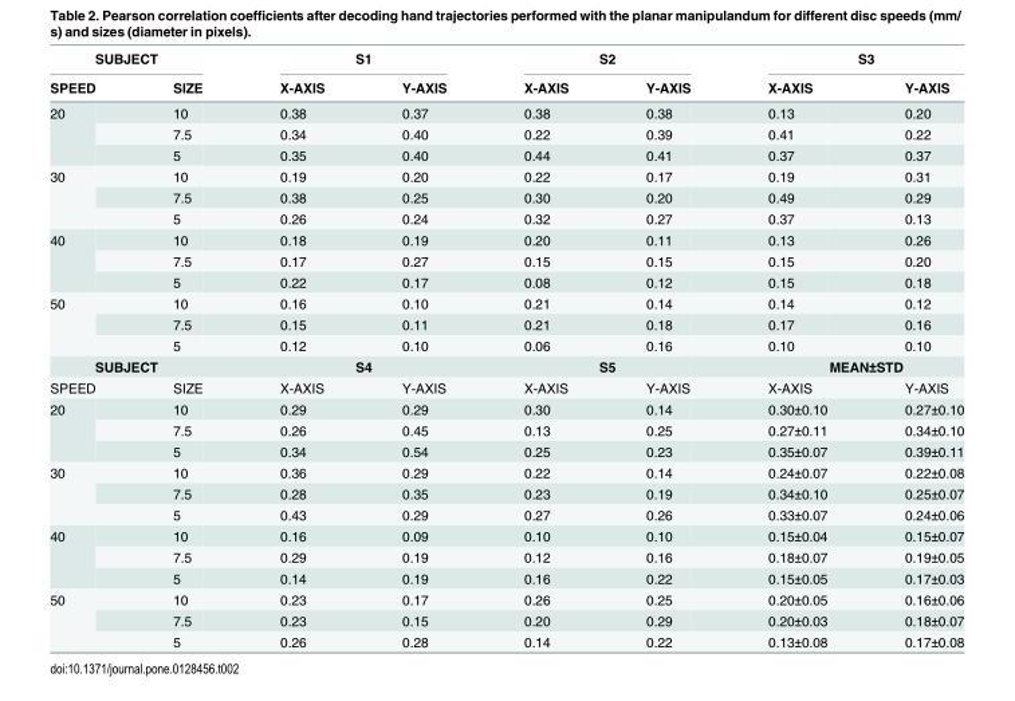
<table><thead><tr><td colspan="2">SUBJECT</td><td colspan="2">S1</td><td colspan="2">S2</td><td colspan="2">S3</td></tr><tr><td>SPEED</td><td>SIZE</td><td>X-AXIS</td><td>Y-AXIS</td><td>X-AXIS</td><td>Y-AXIS</td><td>X-AXIS</td><td>Y-AXIS</td></tr></thead><tbody><tr><td rowspan="3">20</td><td>10</td><td>0.38</td><td>0.37</td><td>0.38</td><td>0.38</td><td>0.13</td><td>0.20</td></tr><tr><td>7.5</td><td>0.34</td><td>0.40</td><td>0.22</td><td>0.39</td><td>0.41</td><td>0.22</td></tr><tr><td>5</td><td>0.35</td><td>0.40</td><td>0.44</td><td>0.41</td><td>0.37</td><td>0.37</td></tr><tr><td rowspan="3">30</td><td>10</td><td>0.19</td><td>0.20</td><td>0.22</td><td>0.17</td><td>0.19</td><td>0.31</td></tr><tr><td>7.5</td><td>0.38</td><td>0.25</td><td>0.30</td><td>0.20</td><td>0.49</td><td>0.29</td></tr><tr><td>5</td><td>0.26</td><td>0.24</td><td>0.32</td><td>0.27</td><td>0.37</td><td>0.13</td></tr><tr><td rowspan="3">40</td><td>10</td><td>0.18</td><td>0.19</td><td>0.20</td><td>0.11</td><td>0.13</td><td>0.26</td></tr><tr><td>7.5</td><td>0.17</td><td>0.27</td><td>0.15</td><td>0.15</td><td>0.15</td><td>0.20</td></tr><tr><td>5</td><td>0.22</td><td>0.17</td><td>0.08</td><td>0.12</td><td>0.15</td><td>0.18</td></tr><tr><td rowspan="3">50</td><td>10</td><td>0.16</td><td>0.10</td><td>0.21</td><td>0.14</td><td>0.14</td><td>0.12</td></tr><tr><td>7.5</td><td>0.15</td><td>0.11</td><td>0.21</td><td>0.18</td><td>0.17</td><td>0.16</td></tr><tr><td>5</td><td>0.12</td><td>0.10</td><td>0.06</td><td>0.16</td><td>0.10</td><td>0.10</td></tr><tr><td colspan="2">SUBJECT</td><td colspan="2">S4</td><td colspan="2">S5</td><td colspan="2">MEAN±STD</td></tr><tr><td>SPEED</td><td>SIZE</td><td>X-AXIS</td><td>Y-AXIS</td><td>X-AXIS</td><td>Y-AXIS</td><td>X-AXIS</td><td>Y-AXIS</td></tr><tr><td rowspan="3">20</td><td>10</td><td>0.29</td><td>0.29</td><td>0.30</td><td>0.14</td><td>0.30±0.10</td><td>0.27±0.10</td></tr><tr><td>7.5</td><td>0.26</td><td>0.45</td><td>0.13</td><td>0.25</td><td>0.27±0.11</td><td>0.34±0.10</td></tr><tr><td>5</td><td>0.34</td><td>0.54</td><td>0.25</td><td>0.23</td><td>0.35±0.07</td><td>0.39±0.11</td></tr><tr><td rowspan="3">30</td><td>10</td><td>0.36</td><td>0.29</td><td>0.22</td><td>0.14</td><td>0.24±0.07</td><td>0.22±0.08</td></tr><tr><td>7.5</td><td>0.28</td><td>0.35</td><td>0.23</td><td>0.19</td><td>0.34±0.10</td><td>0.25±0.07</td></tr><tr><td>5</td><td>0.43</td><td>0.29</td><td>0.27</td><td>0.26</td><td>0.33±0.07</td><td>0.24±0.06</td></tr><tr><td rowspan="3">40</td><td>10</td><td>0.16</td><td>0.09</td><td>0.10</td><td>0.10</td><td>0.15±0.04</td><td>0.15±0.07</td></tr><tr><td>7.5</td><td>0.29</td><td>0.19</td><td>0.12</td><td>0.16</td><td>0.18±0.07</td><td>0.19±0.05</td></tr><tr><td>5</td><td>0.14</td><td>0.19</td><td>0.16</td><td>0.22</td><td>0.15±0.05</td><td>0.17±0.03</td></tr><tr><td rowspan="3">50</td><td>10</td><td>0.23</td><td>0.17</td><td>0.26</td><td>0.25</td><td>0.20±0.05</td><td>0.16±0.06</td></tr><tr><td>7.5</td><td>0.23</td><td>0.15</td><td>0.20</td><td>0.29</td><td>0.20±0.03</td><td>0.18±0.07</td></tr><tr><td>5</td><td>0.26</td><td>0.28</td><td>0.14</td><td>0.22</td><td>0.13±0.08</td><td>0.17±0.08</td></tr></tbody></table>